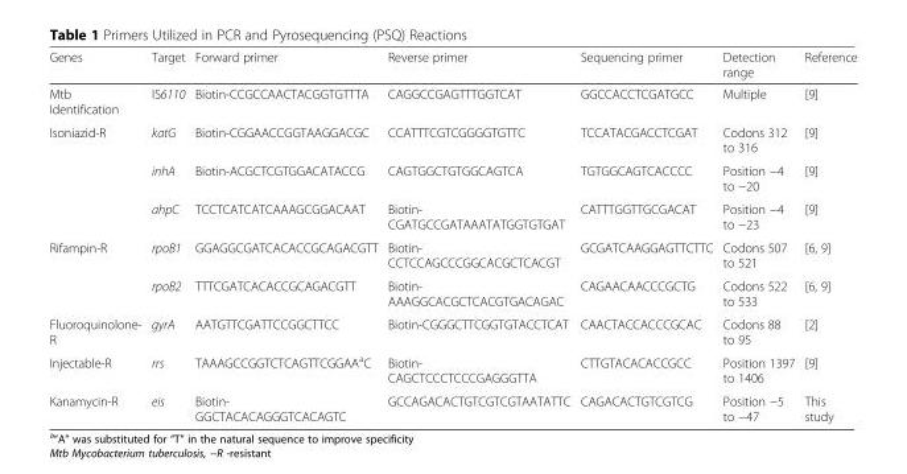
<table><thead><tr><td>Genes</td><td>Target</td><td>Forward primer</td><td>Reverse primer</td><td>Sequencing primer</td><td>Detection range</td><td>Reference</td></tr></thead><tbody><tr><td>Mtb Identification</td><td>IS6110</td><td>Biotin-CCGCCAACTACGGTGTTTA</td><td>CAGGCCGAGTTTGGTCAT</td><td>GGCCACCTCGATGCC</td><td>Multiple</td><td>[9]</td></tr><tr><td rowspan="3">Isoniazid-R</td><td>katG</td><td>Biotin-CGGAACCGGTAAGGACGC</td><td>CCATTTCGTCGGGGTGTTC</td><td>TCCATACGACCTCGAT</td><td>Codons 312 to 316</td><td>[9]</td></tr><tr><td>inhA</td><td>Biotin-ACGCTCGTGGACATACCG</td><td>CAGTGGCTGTGGCAGTCA</td><td>TGTGGCAGTCACCCC</td><td>Position −4 to −20</td><td>[9]</td></tr><tr><td>ahpC</td><td>TCCTCATCATCAAAGCGGACAAT</td><td>Biotin- CGATGCCGATAAATATGGTGTGAT</td><td>CATTTGGTTGCGACAT</td><td>Position −4 to −23</td><td>[9]</td></tr><tr><td rowspan="2">Rifampin-R</td><td>rpoB1</td><td>GGAGGCGATCACACCGCAGACGTT</td><td>Biotin- CCTCCAGCCCGGCACGCTCACGT</td><td>GCGATCAAGGAGTTCTTC</td><td>Codons 507 to 521</td><td>[6, 9]</td></tr><tr><td>rpoB2</td><td>TTTCGATCACACCGCAGACGTT</td><td>Biotin- AAAGGCACGCTCACGTGACAGAC</td><td>CAGAACAACCCGCTG</td><td>Codons 522 to 533</td><td>[6, 9]</td></tr><tr><td>Fluoroquinolone- R</td><td>gyrA</td><td>AATGTTCGATTCCGGCTTCC</td><td>Biotin-CGGGCTTCGGTGTACCTCAT</td><td>CAACTACCACCCGCAC</td><td>Codons 88 to 95</td><td>[2]</td></tr><tr><td>Injectable-R</td><td>rrs</td><td>TAAAGCCGGTCTCAGTTCGGAA<sup>a</sup>C</td><td>Biotin- CAGCTCCCTCCCGAGGGTTA</td><td>CTTGTACACACCGCC</td><td>Position 1397 to 1406</td><td>[9]</td></tr><tr><td>Kanamycin-R</td><td>eis</td><td>Biotin- GGCTACACAGGGTCACAGTC</td><td>GCCAGACACTGTCGTCGTAATATTC</td><td>CAGACACTGTCGTCG</td><td>Position −5 to −47</td><td>This study</td></tr></tbody></table>